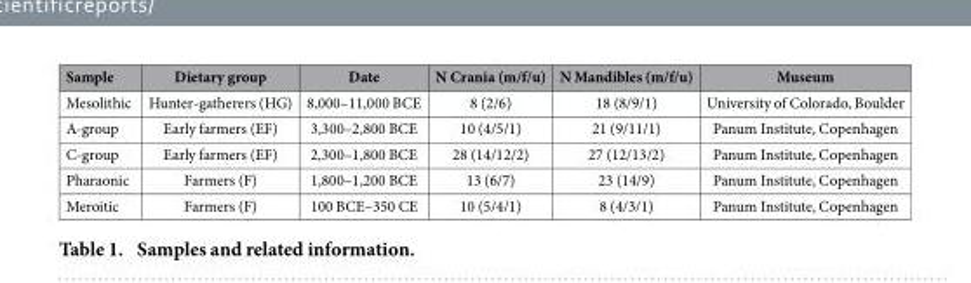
<table><thead><tr><td>Sample</td><td>Dietary group</td><td>Date</td><td>N Crania (m/f/u)</td><td>N Mandibles (m/f/u)</td><td>Museum</td></tr></thead><tbody><tr><td>Mesolithic</td><td>Hunter-gatherers (HG)</td><td>8,000–11,000 BCE</td><td>8 (2/6)</td><td>18 (8/9/1)</td><td>University of Colorado, Boulder</td></tr><tr><td>A-group</td><td>Early farmers (EF)</td><td>3,300–2,800 BCE</td><td>10 (4/5/1)</td><td>21 (9/11/1)</td><td>Panum Institute, Copenhagen</td></tr><tr><td>C-group</td><td>Early farmers (EF)</td><td>2,300–1,800 BCE</td><td>28 (14/12/2)</td><td>27 (12/13/2)</td><td>Panum Institute, Copenhagen</td></tr><tr><td>Pharaonic</td><td>Farmers (F)</td><td>1,800–1,200 BCE</td><td>13 (6/7)</td><td>23 (14/9)</td><td>Panum Institute, Copenhagen</td></tr><tr><td>Meroitic</td><td>Farmers (F)</td><td>100 BCE–350 CE</td><td>10 (5/4/1)</td><td>8 (4/3/1)</td><td>Panum Institute, Copenhagen</td></tr></tbody></table>